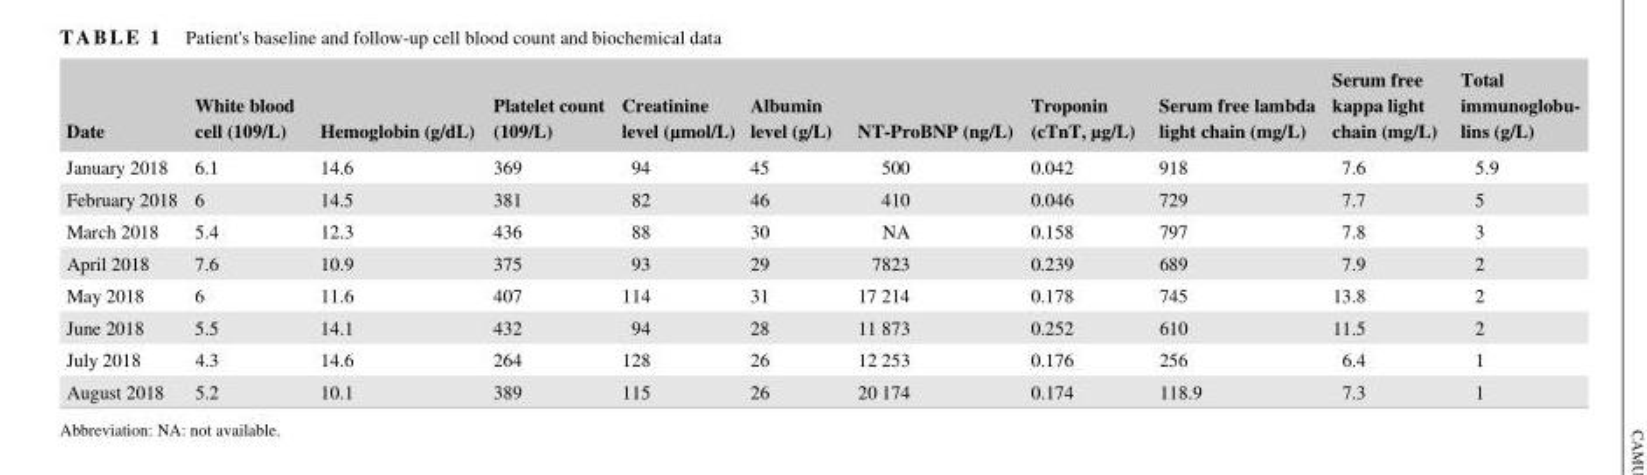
<table><thead><tr><td>Date</td><td>White blood cell (109/L)</td><td>Hemoglobin (g/dL)</td><td>Platelet count (109/L)</td><td>Creatinine level (µmol/L)</td><td>Albumin level (g/L)</td><td>NT‐ProBNP (ng/L)</td><td>Troponin (cTnT, µg/L)</td><td>Serum free lambda light chain (mg/L)</td><td>Serum free kappa light chain (mg/L)</td><td>Total immunoglobu- lins (g/L)</td></tr></thead><tbody><tr><td>January 2018</td><td>6.1</td><td>14.6</td><td>369</td><td>94</td><td>45</td><td>500</td><td>0.042</td><td>918</td><td>7.6</td><td>5.9</td></tr><tr><td>February 2018</td><td>6</td><td>14.5</td><td>381</td><td>82</td><td>46</td><td>410</td><td>0.046</td><td>729</td><td>7.7</td><td>5</td></tr><tr><td>March 2018</td><td>5.4</td><td>12.3</td><td>436</td><td>88</td><td>30</td><td>NA</td><td>0.158</td><td>797</td><td>7.8</td><td>3</td></tr><tr><td>April 2018</td><td>7.6</td><td>10.9</td><td>375</td><td>93</td><td>29</td><td>7823</td><td>0.239</td><td>689</td><td>7.9</td><td>2</td></tr><tr><td>May 2018</td><td>6</td><td>11.6</td><td>407</td><td>114</td><td>31</td><td>17 214</td><td>0.178</td><td>745</td><td>13.8</td><td>2</td></tr><tr><td>June 2018</td><td>5.5</td><td>14.1</td><td>432</td><td>94</td><td>28</td><td>11 873</td><td>0.252</td><td>610</td><td>11.5</td><td>2</td></tr><tr><td>July 2018</td><td>4.3</td><td>14.6</td><td>264</td><td>128</td><td>26</td><td>12 253</td><td>0.176</td><td>256</td><td>6.4</td><td>1</td></tr><tr><td>August 2018</td><td>5.2</td><td>10.1</td><td>389</td><td>115</td><td>26</td><td>20 174</td><td>0.174</td><td>118.9</td><td>7.3</td><td>1</td></tr></tbody></table>